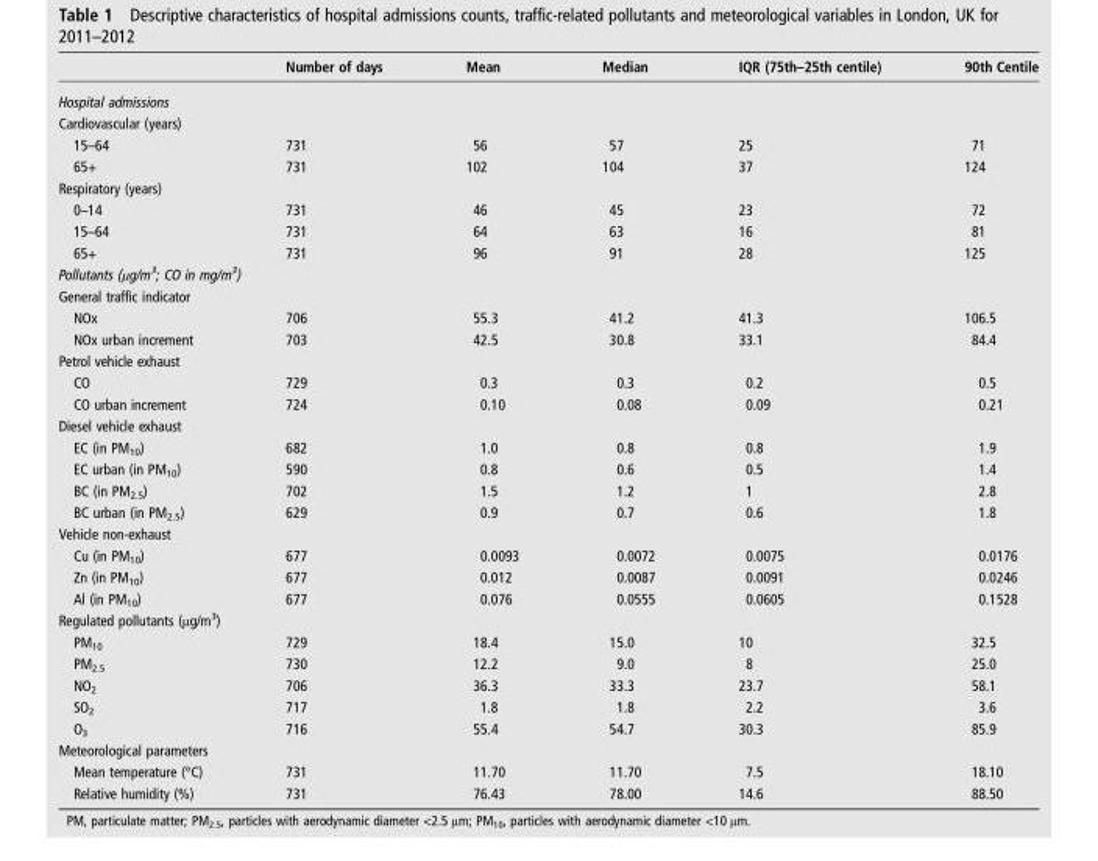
<table><thead><tr><td></td><td>Number of days</td><td>Mean</td><td>Median</td><td>IQR (75th–25th centile)</td><td>90th Centile</td></tr></thead><tbody><tr><td colspan="6">Hospital admissions</td></tr><tr><td colspan="6">Cardiovascular (years)</td></tr><tr><td>15–64</td><td>731</td><td>56</td><td>57</td><td>25</td><td>71</td></tr><tr><td>65+</td><td>731</td><td>102</td><td>104</td><td>37</td><td>124</td></tr><tr><td colspan="6">Respiratory (years)</td></tr><tr><td>0–14</td><td>731</td><td>46</td><td>45</td><td>23</td><td>72</td></tr><tr><td>15–64</td><td>731</td><td>64</td><td>63</td><td>16</td><td>81</td></tr><tr><td>65+</td><td>731</td><td>96</td><td>91</td><td>28</td><td>125</td></tr><tr><td colspan="6">Pollutants (μg/m<sup>3</sup>; CO in mg/m<sup>3</sup>)</td></tr><tr><td colspan="6">General traffic indicator</td></tr><tr><td>NOx</td><td>706</td><td>55.3</td><td>41.2</td><td>41.3</td><td>106.5</td></tr><tr><td>NOx urban increment</td><td>703</td><td>42.5</td><td>30.8</td><td>33.1</td><td>84.4</td></tr><tr><td colspan="6">Petrol vehicle exhaust</td></tr><tr><td>CO</td><td>729</td><td>0.3</td><td>0.3</td><td>0.2</td><td>0.5</td></tr><tr><td>CO urban increment</td><td>724</td><td>0.10</td><td>0.08</td><td>0.09</td><td>0.21</td></tr><tr><td colspan="6">Diesel vehicle exhaust</td></tr><tr><td>EC (in PM<sub>10</sub>)</td><td>682</td><td>1.0</td><td>0.8</td><td>0.8</td><td>1.9</td></tr><tr><td>EC urban (in PM<sub>10</sub>)</td><td>590</td><td>0.8</td><td>0.6</td><td>0.5</td><td>1.4</td></tr><tr><td>BC (in PM<sub>2.5</sub>)</td><td>702</td><td>1.5</td><td>1.2</td><td>1</td><td>2.8</td></tr><tr><td>BC urban (in PM<sub>2.5</sub>)</td><td>629</td><td>0.9</td><td>0.7</td><td>0.6</td><td>1.8</td></tr><tr><td colspan="6">Vehicle non-exhaust</td></tr><tr><td>Cu (in PM<sub>10</sub>)</td><td>677</td><td>0.0093</td><td>0.0072</td><td>0.0075</td><td>0.0176</td></tr><tr><td>Zn (in PM<sub>10</sub>)</td><td>677</td><td>0.012</td><td>0.0087</td><td>0.0091</td><td>0.0246</td></tr><tr><td>Al (in PM<sub>10</sub>)</td><td>677</td><td>0.076</td><td>0.0555</td><td>0.0605</td><td>0.1528</td></tr><tr><td colspan="6">Regulated pollutants (μg/m<sup>3</sup>)</td></tr><tr><td>PM<sub>10</sub></td><td>729</td><td>18.4</td><td>15.0</td><td>10</td><td>32.5</td></tr><tr><td>PM<sub>2.5</sub></td><td>730</td><td>12.2</td><td>9.0</td><td>8</td><td>25.0</td></tr><tr><td>NO<sub>2</sub></td><td>706</td><td>36.3</td><td>33.3</td><td>23.7</td><td>58.1</td></tr><tr><td>SO<sub>2</sub></td><td>717</td><td>1.8</td><td>1.8</td><td>2.2</td><td>3.6</td></tr><tr><td>O<sub>3</sub></td><td>716</td><td>55.4</td><td>54.7</td><td>30.3</td><td>85.9</td></tr><tr><td colspan="6">Meteorological parameters</td></tr><tr><td>Mean temperature (°C)</td><td>731</td><td>11.70</td><td>11.70</td><td>7.5</td><td>18.10</td></tr><tr><td>Relative humidity (%)</td><td>731</td><td>76.43</td><td>78.00</td><td>14.6</td><td>88.50</td></tr></tbody></table>